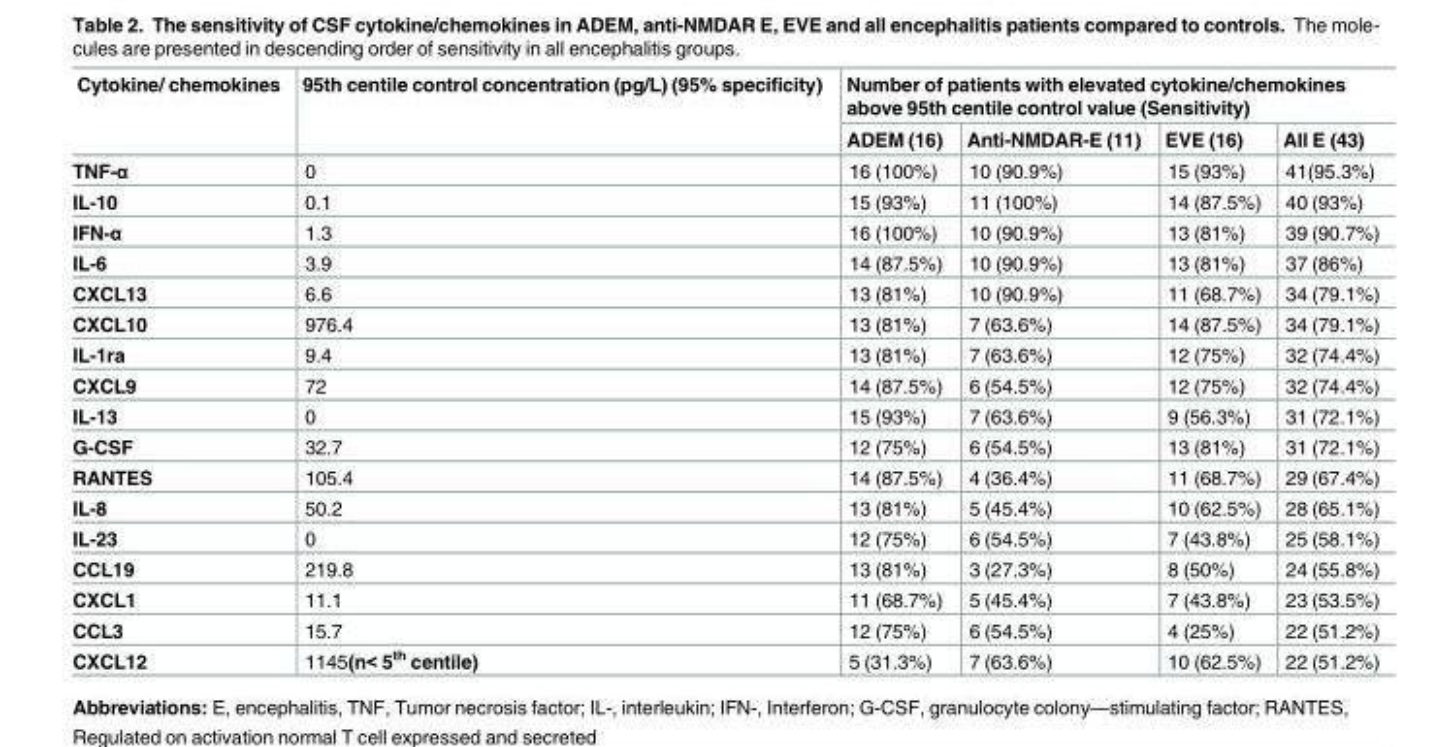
<table><thead><tr><td rowspan="2">Cytokine/ chemokines</td><td rowspan="2">95th centile control concentration (pg/L) (95% specificity)</td><td colspan="4">Number of patients with elevated cytokine/chemokines above 95th centile control value (Sensitivity)</td></tr><tr><td>ADEM (16)</td><td>Anti-NMDAR-E (11)</td><td>EVE (16)</td><td>All E (43)</td></tr></thead><tbody><tr><td>TNF-α</td><td>0</td><td>16 (100%)</td><td>10 (90.9%)</td><td>15 (93%)</td><td>41(95.3%)</td></tr><tr><td>IL-10</td><td>0.1</td><td>15 (93%)</td><td>11 (100%)</td><td>14 (87.5%)</td><td>40 (93%)</td></tr><tr><td>IFN-α</td><td>1.3</td><td>16 (100%)</td><td>10 (90.9%)</td><td>13 (81%)</td><td>39 (90.7%)</td></tr><tr><td>IL-6</td><td>3.9</td><td>14 (87.5%)</td><td>10 (90.9%)</td><td>13 (81%)</td><td>37 (86%)</td></tr><tr><td>CXCL13</td><td>6.6</td><td>13 (81%)</td><td>10 (90.9%)</td><td>11 (68.7%)</td><td>34 (79.1%)</td></tr><tr><td>CXCL10</td><td>976.4</td><td>13 (81%)</td><td>7 (63.6%)</td><td>14 (87.5%)</td><td>34 (79.1%)</td></tr><tr><td>IL-1ra</td><td>9.4</td><td>13 (81%)</td><td>7 (63.6%)</td><td>12 (75%)</td><td>32 (74.4%)</td></tr><tr><td>CXCL9</td><td>72</td><td>14 (87.5%)</td><td>6 (54.5%)</td><td>12 (75%)</td><td>32 (74.4%)</td></tr><tr><td>IL-13</td><td>0</td><td>15 (93%)</td><td>7 (63.6%)</td><td>9 (56.3%)</td><td>31 (72.1%)</td></tr><tr><td>G-CSF</td><td>32.7</td><td>12 (75%)</td><td>6 (54.5%)</td><td>13 (81%)</td><td>31 (72.1%)</td></tr><tr><td>RANTES</td><td>105.4</td><td>14 (87.5%)</td><td>4 (36.4%)</td><td>11 (68.7%)</td><td>29 (67.4%)</td></tr><tr><td>IL-8</td><td>50.2</td><td>13 (81%)</td><td>5 (45.4%)</td><td>10 (62.5%)</td><td>28 (65.1%)</td></tr><tr><td>IL-23</td><td>0</td><td>12 (75%)</td><td>6 (54.5%)</td><td>7 (43.8%)</td><td>25 (58.1%)</td></tr><tr><td>CCL19</td><td>219.8</td><td>13 (81%)</td><td>3 (27.3%)</td><td>8 (50%)</td><td>24 (55.8%)</td></tr><tr><td>CXCL1</td><td>11.1</td><td>11 (68.7%)</td><td>5 (45.4%)</td><td>7 (43.8%)</td><td>23 (53.5%)</td></tr><tr><td>CCL3</td><td>15.7</td><td>12 (75%)</td><td>6 (54.5%)</td><td>4 (25%)</td><td>22 (51.2%)</td></tr><tr><td>CXCL12</td><td>1145(n&lt; 5<sup>th</sup> centile)</td><td>5 (31.3%)</td><td>7 (63.6%)</td><td>10 (62.5%)</td><td>22 (51.2%)</td></tr></tbody></table>